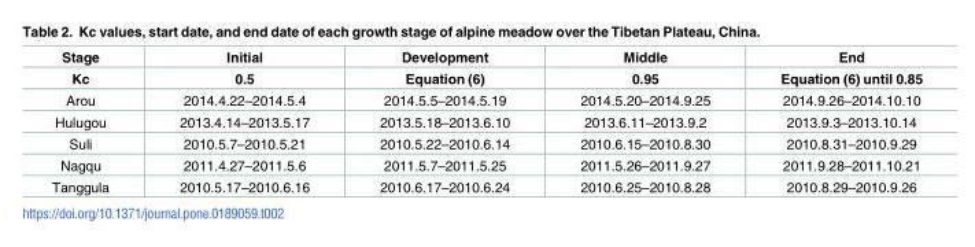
<table><thead><tr><td rowspan="2">Stage Kc</td><td rowspan="2">Initial 0.5</td><td rowspan="2">Development Equation (6)</td><td rowspan="2">Middle 0.95</td><td rowspan="2">End Equation (6) until 0.85</td></tr><tr></tr></thead><tbody><tr><td>Arou</td><td>2014.4.22–2014.5.4</td><td>2014.5.5–2014.5.19</td><td>2014.5.20–2014.9.25</td><td>2014.9.26–2014.10.10</td></tr><tr><td>Hulugou</td><td>2013.4.14–2013.5.17</td><td>2013.5.18–2013.6.10</td><td>2013.6.11–2013.9.2</td><td>2013.9.3–2013.10.14</td></tr><tr><td>Suli</td><td>2010.5.7–2010.5.21</td><td>2010.5.22–2010.6.14</td><td>2010.6.15–2010.8.30</td><td>2010.8.31–2010.9.29</td></tr><tr><td>Nagqu</td><td>2011.4.27–2011.5.6</td><td>2011.5.7–2011.5.25</td><td>2011.5.26–2011.9.27</td><td>2011.9.28–2011.10.21</td></tr><tr><td>Tanggula</td><td>2010.5.17–2010.6.16</td><td>2010.6.17–2010.6.24</td><td>2010.6.25–2010.8.28</td><td>2010.8.29–2010.9.26</td></tr></tbody></table>